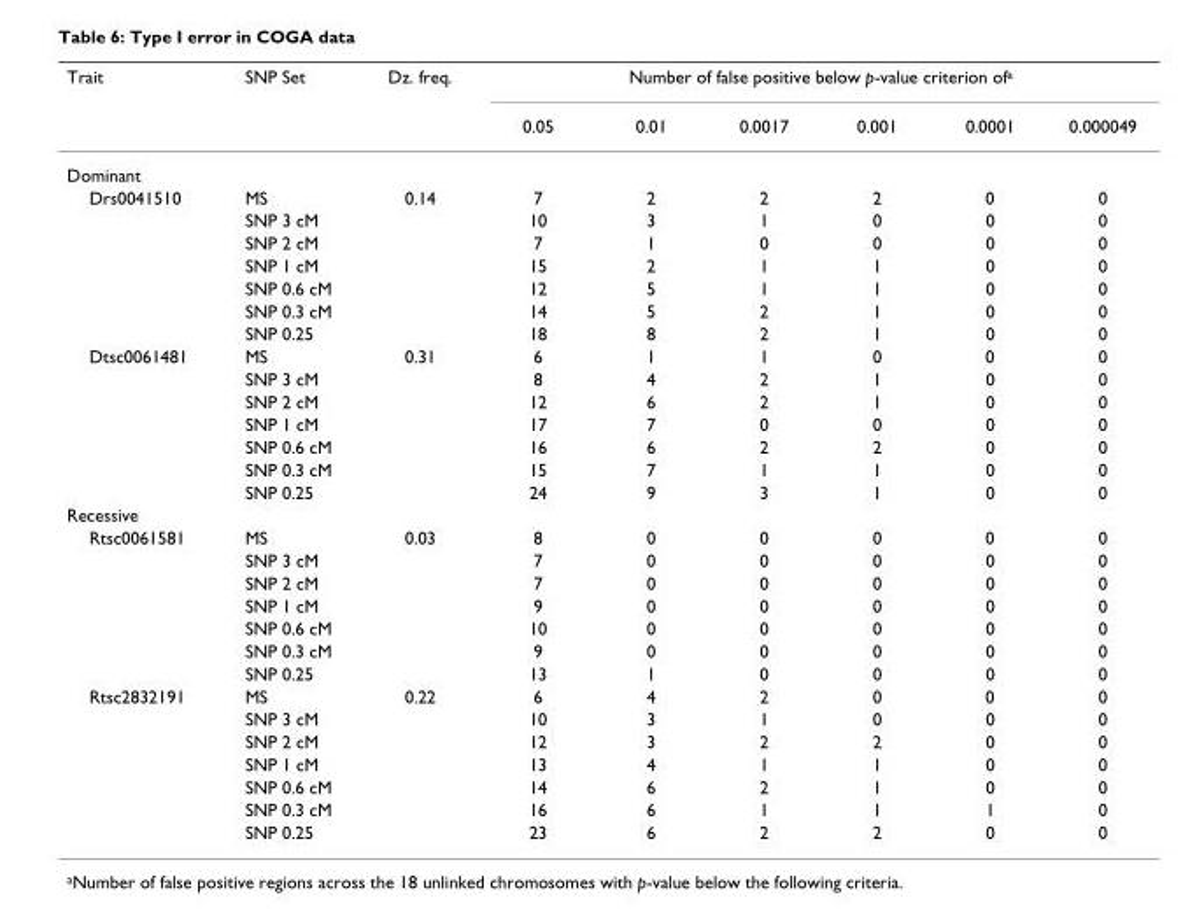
<table><thead><tr><td rowspan="2">Trait</td><td rowspan="2">SNP Set</td><td rowspan="2">Dz. freq.</td><td colspan="6">Number of false positive below p-value criterion ofa</td></tr><tr><td>0.05</td><td>0.01</td><td>0.0017</td><td>0.001</td><td>0.0001</td><td>0.000049</td></tr></thead><tbody><tr><td colspan="9">Dominant</td></tr><tr><td rowspan="7">Drs0041510</td><td>MS</td><td>0.14</td><td>7</td><td>2</td><td>2</td><td>2</td><td>0</td><td>0</td></tr><tr><td>SNP 3 cM</td><td></td><td>10</td><td>3</td><td>1</td><td>0</td><td>0</td><td>0</td></tr><tr><td>SNP 2 cM</td><td></td><td>7</td><td>1</td><td>0</td><td>0</td><td>0</td><td>0</td></tr><tr><td>SNP 1 cM</td><td></td><td>15</td><td>2</td><td>1</td><td>1</td><td>0</td><td>0</td></tr><tr><td>SNP 0.6 cM</td><td></td><td>12</td><td>5</td><td>1</td><td>1</td><td>0</td><td>0</td></tr><tr><td>SNP 0.3 cM</td><td></td><td>14</td><td>5</td><td>2</td><td>1</td><td>0</td><td>0</td></tr><tr><td>SNP 0.25</td><td></td><td>18</td><td>8</td><td>2</td><td>1</td><td>0</td><td>0</td></tr><tr><td rowspan="7">Dtsc0061481</td><td>MS</td><td>0.31</td><td>6</td><td>1</td><td>1</td><td>0</td><td>0</td><td>0</td></tr><tr><td>SNP 3 cM</td><td></td><td>8</td><td>4</td><td>2</td><td>1</td><td>0</td><td>0</td></tr><tr><td>SNP 2 cM</td><td></td><td>12</td><td>6</td><td>2</td><td>1</td><td>0</td><td>0</td></tr><tr><td>SNP 1 cM</td><td></td><td>17</td><td>7</td><td>0</td><td>0</td><td>0</td><td>0</td></tr><tr><td>SNP 0.6 cM</td><td></td><td>16</td><td>6</td><td>2</td><td>2</td><td>0</td><td>0</td></tr><tr><td>SNP 0.3 cM</td><td></td><td>15</td><td>7</td><td>1</td><td>1</td><td>0</td><td>0</td></tr><tr><td>SNP 0.25</td><td></td><td>24</td><td>9</td><td>3</td><td>1</td><td>0</td><td>0</td></tr><tr><td colspan="9">Recessive</td></tr><tr><td rowspan="7">Rtsc0061581</td><td>MS</td><td>0.03</td><td>8</td><td>0</td><td>0</td><td>0</td><td>0</td><td>0</td></tr><tr><td>SNP 3 cM</td><td></td><td>7</td><td>0</td><td>0</td><td>0</td><td>0</td><td>0</td></tr><tr><td>SNP 2 cM</td><td></td><td>7</td><td>0</td><td>0</td><td>0</td><td>0</td><td>0</td></tr><tr><td>SNP 1 cM</td><td></td><td>9</td><td>0</td><td>0</td><td>0</td><td>0</td><td>0</td></tr><tr><td>SNP 0.6 cM</td><td></td><td>10</td><td>0</td><td>0</td><td>0</td><td>0</td><td>0</td></tr><tr><td>SNP 0.3 cM</td><td></td><td>9</td><td>0</td><td>0</td><td>0</td><td>0</td><td>0</td></tr><tr><td>SNP 0.25</td><td></td><td>13</td><td>1</td><td>0</td><td>0</td><td>0</td><td>0</td></tr><tr><td rowspan="7">Rtsc2832191</td><td>MS</td><td>0.22</td><td>6</td><td>4</td><td>2</td><td>0</td><td>0</td><td>0</td></tr><tr><td>SNP 3 cM</td><td></td><td>10</td><td>3</td><td>1</td><td>0</td><td>0</td><td>0</td></tr><tr><td>SNP 2 cM</td><td></td><td>12</td><td>3</td><td>2</td><td>2</td><td>0</td><td>0</td></tr><tr><td>SNP 1 cM</td><td></td><td>13</td><td>4</td><td>1</td><td>1</td><td>0</td><td>0</td></tr><tr><td>SNP 0.6 cM</td><td></td><td>14</td><td>6</td><td>2</td><td>1</td><td>0</td><td>0</td></tr><tr><td>SNP 0.3 cM</td><td></td><td>16</td><td>6</td><td>1</td><td>1</td><td>1</td><td>0</td></tr><tr><td>SNP 0.25</td><td></td><td>23</td><td>6</td><td>2</td><td>2</td><td>0</td><td>0</td></tr></tbody></table>